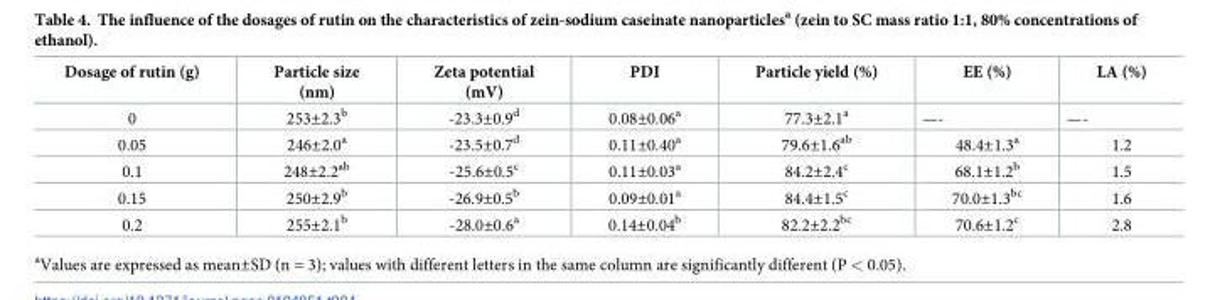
<table><thead><tr><td>Dosage of rutin (g)</td><td>Particle size (nm)</td><td>Zeta potential (mV)</td><td>PDI</td><td>Particle yield (%)</td><td>EE (%)</td><td>LA (%)</td></tr></thead><tbody><tr><td>0</td><td>253±2.3<sup>b</sup></td><td>-23.3±0.9<sup>d</sup></td><td>0.08±0.06<sup>a</sup></td><td>77.3±2.1<sup>a</sup></td><td>—-</td><td>—-</td></tr><tr><td>0.05</td><td>246±2.0<sup>a</sup></td><td>-23.5±0.7<sup>d</sup></td><td>0.11±0.40<sup>a</sup></td><td>79.6±1.6<sup>ab</sup></td><td>48.4±1.3<sup>a</sup></td><td>1.2</td></tr><tr><td>0.1</td><td>248±2.2<sup>ab</sup></td><td>-25.6±0.5<sup>c</sup></td><td>0.11±0.03<sup>a</sup></td><td>84.2±2.4<sup>c</sup></td><td>68.1±1.2<sup>b</sup></td><td>1.5</td></tr><tr><td>0.15</td><td>250±2.9<sup>b</sup></td><td>-26.9±0.5<sup>b</sup></td><td>0.09±0.01<sup>a</sup></td><td>84.4±1.5<sup>c</sup></td><td>70.0±1.3<sup>bc</sup></td><td>1.6</td></tr><tr><td>0.2</td><td>255±2.1<sup>b</sup></td><td>-28.0±0.6<sup>a</sup></td><td>0.14±0.04<sup>b</sup></td><td>82.2±2.2<sup>bc</sup></td><td>70.6±1.2<sup>c</sup></td><td>2.8</td></tr></tbody></table>